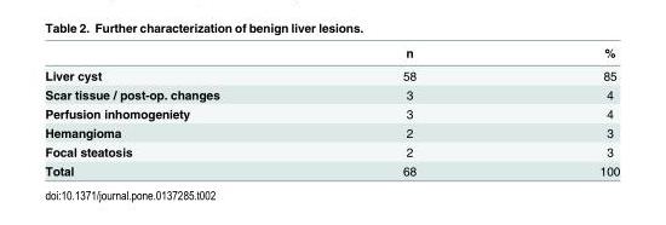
<table><thead><tr><td></td><td>n</td><td>%</td></tr></thead><tbody><tr><td>Liver cyst</td><td>58</td><td>85</td></tr><tr><td>Scar tissue / post-op. changes</td><td>3</td><td>4</td></tr><tr><td>Perfusion inhomogeniety</td><td>3</td><td>4</td></tr><tr><td>Hemangioma</td><td>2</td><td>3</td></tr><tr><td>Focal steatosis</td><td>2</td><td>3</td></tr><tr><td>Total</td><td>68</td><td>100</td></tr></tbody></table>